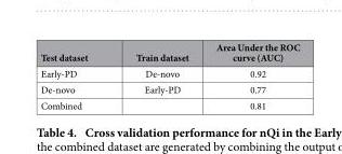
<table><thead><tr><td>Test dataset</td><td>Train dataset</td><td>Area Under the ROC curve (AUC)</td></tr></thead><tbody><tr><td>Early-PD</td><td>De-novo</td><td>0.92</td></tr><tr><td>De-novo</td><td>Early-PD</td><td>0.77</td></tr><tr><td>Combined</td><td></td><td>0.81</td></tr></tbody></table>